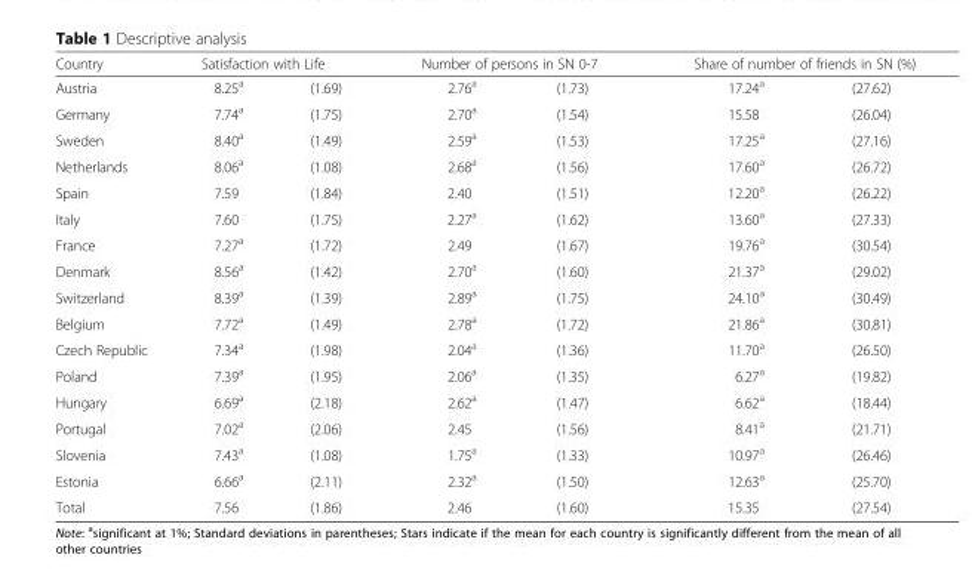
<table><thead><tr><td rowspan="2">Country Austria</td><td colspan="2">Satisfaction with Life</td><td colspan="2">Number of persons in SN 0-7</td><td colspan="2">Share of number of friends in SN (%)</td></tr><tr><td>8.25<sup>a</sup></td><td>(1.69)</td><td>2.76<sup>a</sup></td><td>(1.73)</td><td>17.24<sup>a</sup></td><td>(27.62)</td></tr></thead><tbody><tr><td>Germany</td><td>7.74<sup>a</sup></td><td>(1.75)</td><td>2.70<sup>a</sup></td><td>(1.54)</td><td>15.58</td><td>(26.04)</td></tr><tr><td>Sweden</td><td>8.40<sup>a</sup></td><td>(1.49)</td><td>2.59<sup>a</sup></td><td>(1.53)</td><td>17.25<sup>a</sup></td><td>(27.16)</td></tr><tr><td>Netherlands</td><td>8.06<sup>a</sup></td><td>(1.08)</td><td>2.68<sup>a</sup></td><td>(1.56)</td><td>17.60<sup>a</sup></td><td>(26.72)</td></tr><tr><td>Spain</td><td>7.59</td><td>(1.84)</td><td>2.40</td><td>(1.51)</td><td>12.20<sup>a</sup></td><td>(26.22)</td></tr><tr><td>Italy</td><td>7.60</td><td>(1.75)</td><td>2.27<sup>a</sup></td><td>(1.62)</td><td>13.60<sup>a</sup></td><td>(27.33)</td></tr><tr><td>France</td><td>7.27<sup>a</sup></td><td>(1.72)</td><td>2.49</td><td>(1.67)</td><td>19.76<sup>a</sup></td><td>(30.54)</td></tr><tr><td>Denmark</td><td>8.56<sup>a</sup></td><td>(1.42)</td><td>2.70<sup>a</sup></td><td>(1.60)</td><td>21.37<sup>a</sup></td><td>(29.02)</td></tr><tr><td>Switzerland</td><td>8.39<sup>a</sup></td><td>(1.39)</td><td>2.89<sup>a</sup></td><td>(1.75)</td><td>24.10<sup>a</sup></td><td>(30.49)</td></tr><tr><td>Belgium</td><td>7.72<sup>a</sup></td><td>(1.49)</td><td>2.78<sup>a</sup></td><td>(1.72)</td><td>21.86<sup>a</sup></td><td>(30.81)</td></tr><tr><td>Czech Republic</td><td>7.34<sup>a</sup></td><td>(1.98)</td><td>2.04<sup>a</sup></td><td>(1.36)</td><td>11.70<sup>a</sup></td><td>(26.50)</td></tr><tr><td>Poland</td><td>7.39<sup>a</sup></td><td>(1.95)</td><td>2.06<sup>a</sup></td><td>(1.35)</td><td>6.27<sup>a</sup></td><td>(19.82)</td></tr><tr><td>Hungary</td><td>6.69<sup>a</sup></td><td>(2.18)</td><td>2.62<sup>a</sup></td><td>(1.47)</td><td>6.62<sup>a</sup></td><td>(18.44)</td></tr><tr><td>Portugal</td><td>7.02<sup>a</sup></td><td>(2.06)</td><td>2.45</td><td>(1.56)</td><td>8.41<sup>a</sup></td><td>(21.71)</td></tr><tr><td>Slovenia</td><td>7.43<sup>a</sup></td><td>(1.08)</td><td>1.75<sup>a</sup></td><td>(1.33)</td><td>10.97<sup>a</sup></td><td>(26.46)</td></tr><tr><td>Estonia</td><td>6.66<sup>a</sup></td><td>(2.11)</td><td>2.32<sup>a</sup></td><td>(1.50)</td><td>12.63<sup>a</sup></td><td>(25.70)</td></tr><tr><td>Total</td><td>7.56</td><td>(1.86)</td><td>2.46</td><td>(1.60)</td><td>15.35</td><td>(27.54)</td></tr></tbody></table>